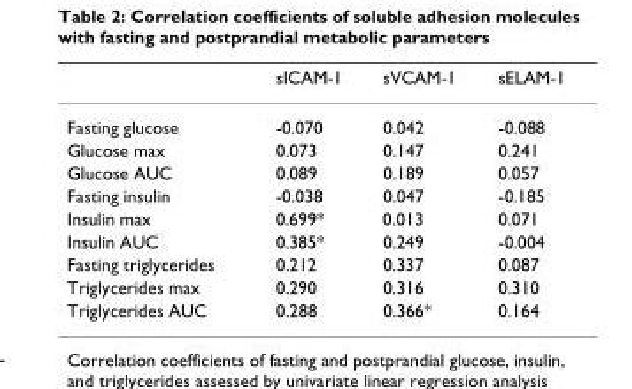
<table><thead><tr><td></td><td>sICAM-1</td><td>sVCAM-1</td><td>sELAM-1</td></tr></thead><tbody><tr><td>Fasting glucose</td><td>-0.070</td><td>0.042</td><td>-0.088</td></tr><tr><td>Glucose max</td><td>0.073</td><td>0.147</td><td>0.241</td></tr><tr><td>Glucose AUC</td><td>0.089</td><td>0.189</td><td>0.057</td></tr><tr><td>Fasting insulin</td><td>-0.038</td><td>0.047</td><td>-0.185</td></tr><tr><td>Insulin max</td><td>0.699*</td><td>0.013</td><td>0.071</td></tr><tr><td>Insulin AUC</td><td>0.385*</td><td>0.249</td><td>-0.004</td></tr><tr><td>Fasting triglycerides</td><td>0.212</td><td>0.337</td><td>0.087</td></tr><tr><td>Triglycerides max</td><td>0.290</td><td>0.316</td><td>0.310</td></tr><tr><td>Triglycerides AUC</td><td>0.288</td><td>0.366*</td><td>0.164</td></tr></tbody></table>